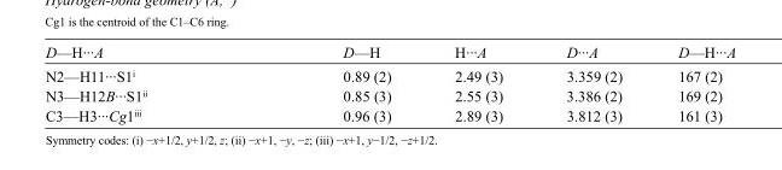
<table><tbody><tr><td>D—H···A</td><td>D—H</td><td>H···A</td><td>D···A</td><td>D—H···A</td></tr><tr><td>N2—H11···S1<sup>i</sup></td><td>0.89 (2)</td><td>2.49 (3)</td><td>3.359 (2)</td><td>167 (2)</td></tr><tr><td>N3—H12B···S1<sup>ii</sup></td><td>0.85 (3)</td><td>2.55 (3)</td><td>3.386 (2)</td><td>169 (2)</td></tr><tr><td>C3—H3···Cg1<sup>iii</sup></td><td>0.96 (3)</td><td>2.89 (3)</td><td>3.812 (3)</td><td>161 (3)</td></tr></tbody></table>